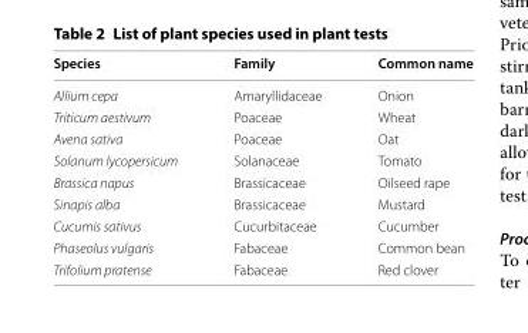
<table><thead><tr><td>Species</td><td>Family</td><td>Common name</td></tr></thead><tbody><tr><td>Allium cepa</td><td>Amaryllidaceae</td><td>Onion</td></tr><tr><td>Triticum aestivum</td><td>Poaceae</td><td>Wheat</td></tr><tr><td>Avena sativa</td><td>Poaceae</td><td>Oat</td></tr><tr><td>Solanum lycopersicum</td><td>Solanaceae</td><td>Tomato</td></tr><tr><td>Brassica napus</td><td>Brassicaceae</td><td>Oilseed rape</td></tr><tr><td>Sinapis alba</td><td>Brassicaceae</td><td>Mustard</td></tr><tr><td>Cucumis sativus</td><td>Cucurbitaceae</td><td>Cucumber</td></tr><tr><td>Phaseolus vulgaris</td><td>Fabaceae</td><td>Common bean</td></tr><tr><td>Trifolium pratense</td><td>Fabaceae</td><td>Red clover</td></tr></tbody></table>